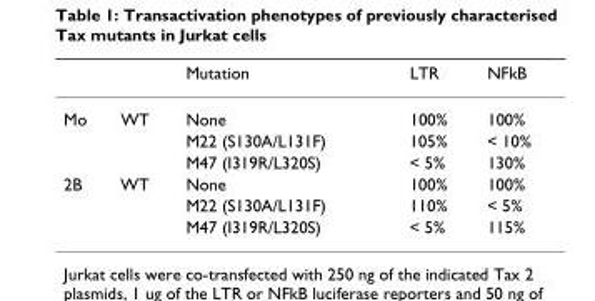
<table><thead><tr><td></td><td></td><td>Mutation</td><td>LTR</td><td>NFkB</td></tr></thead><tbody><tr><td rowspan="3">Mo</td><td>WT</td><td>None</td><td>100%</td><td>100%</td></tr><tr><td></td><td>M22 (S130A/L131F)</td><td>105%</td><td>&lt; 10%</td></tr><tr><td></td><td>M47 (I319R/L320S)</td><td>&lt; 5%</td><td>130%</td></tr><tr><td rowspan="3">2B</td><td>WT</td><td>None</td><td>100%</td><td>100%</td></tr><tr><td></td><td>M22 (S130A/L131F)</td><td>110%</td><td>&lt; 5%</td></tr><tr><td></td><td>M47 (I319R/L320S)</td><td>&lt; 5%</td><td>115%</td></tr></tbody></table>